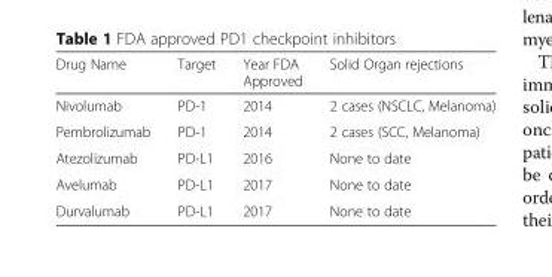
<table><thead><tr><td>Drug Name</td><td>Target</td><td>Year FDA Approved</td><td>Solid Organ rejections</td></tr></thead><tbody><tr><td>Nivolumab</td><td>PD-1</td><td>2014</td><td>2 cases (NSCLC, Melanoma)</td></tr><tr><td>Pembrolizumab</td><td>PD-1</td><td>2014</td><td>2 cases (SCC, Melanoma)</td></tr><tr><td>Atezolizumab</td><td>PD-L1</td><td>2016</td><td>None to date</td></tr><tr><td>Avelumab</td><td>PD-L1</td><td>2017</td><td>None to date</td></tr><tr><td>Durvalumab</td><td>PD-L1</td><td>2017</td><td>None to date</td></tr></tbody></table>